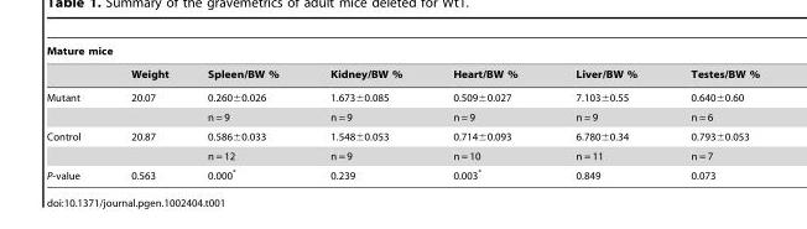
<table><thead><tr><td colspan="7">Mature mice</td></tr><tr><td></td><td>Weight</td><td>Spleen/BW %</td><td>Kidney/BW %</td><td>Heart/BW %</td><td>Liver/BW %</td><td>Testes/BW %</td></tr></thead><tbody><tr><td rowspan="2">Mutant</td><td>20.07</td><td>0.260±0.026</td><td>1.673±0.085</td><td>0.509±0.027</td><td>7.103±0.55</td><td>0.640±0.60</td></tr><tr><td></td><td>n = 9</td><td>n = 9</td><td>n = 9</td><td>n = 9</td><td>n = 6</td></tr><tr><td rowspan="2">Control</td><td>20.87</td><td>0.586±0.033</td><td>1.548±0.053</td><td>0.714±0.093</td><td>6.780±0.34</td><td>0.793±0.053</td></tr><tr><td></td><td>n = 12</td><td>n = 9</td><td>n = 10</td><td>n = 11</td><td>n = 7</td></tr><tr><td>P-value</td><td>0.563</td><td>0.000*</td><td>0.239</td><td>0.003*</td><td>0.849</td><td>0.073</td></tr></tbody></table>